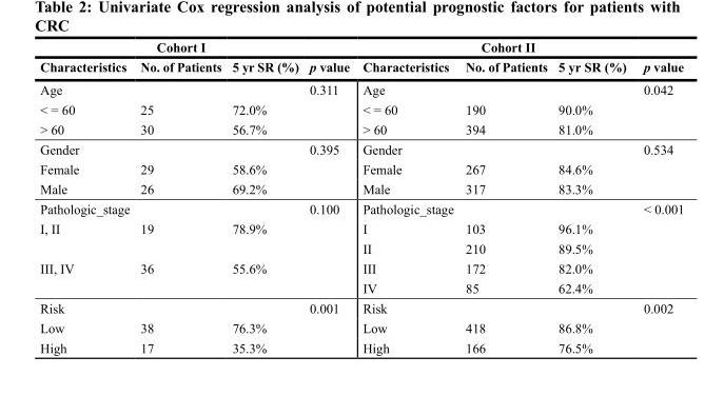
<table><thead><tr><td colspan="4">Cohort I</td><td colspan="4">Cohort II</td></tr><tr><td>Characteristics</td><td>No. of Patients</td><td>5 yr SR (%)</td><td>p value</td><td>Characteristics</td><td>No. of Patients</td><td>5 yr SR (%)</td><td>p value</td></tr></thead><tbody><tr><td>Age</td><td></td><td></td><td>0.311</td><td>Age</td><td></td><td></td><td>0.042</td></tr><tr><td>&lt; = 60</td><td>25</td><td>72.0%</td><td></td><td>&lt; = 60</td><td>190</td><td>90.0%</td><td></td></tr><tr><td>&gt; 60</td><td>30</td><td>56.7%</td><td></td><td>&gt; 60</td><td>394</td><td>81.0%</td><td></td></tr><tr><td>Gender</td><td></td><td></td><td>0.395</td><td>Gender</td><td></td><td></td><td>0.534</td></tr><tr><td>Female</td><td>29</td><td>58.6%</td><td></td><td>Female</td><td>267</td><td>84.6%</td><td></td></tr><tr><td>Male</td><td>26</td><td>69.2%</td><td></td><td>Male</td><td>317</td><td>83.3%</td><td></td></tr><tr><td>Pathologic_stage</td><td></td><td></td><td>0.100</td><td>Pathologic_stage</td><td></td><td></td><td>&lt; 0.001</td></tr><tr><td rowspan="2">I, II</td><td>19</td><td>78.9%</td><td></td><td>I</td><td>103</td><td>96.1%</td><td></td></tr><tr><td></td><td></td><td></td><td>II</td><td>210</td><td>89.5%</td><td></td></tr><tr><td rowspan="2">III, IV</td><td>36</td><td>55.6%</td><td></td><td>III</td><td>172</td><td>82.0%</td><td></td></tr><tr><td></td><td></td><td></td><td>IV</td><td>85</td><td>62.4%</td><td></td></tr><tr><td>Risk</td><td></td><td></td><td>0.001</td><td>Risk</td><td></td><td></td><td>0.002</td></tr><tr><td>Low</td><td>38</td><td>76.3%</td><td></td><td>Low</td><td>418</td><td>86.8%</td><td></td></tr><tr><td>High</td><td>17</td><td>35.3%</td><td></td><td>High</td><td>166</td><td>76.5%</td><td></td></tr></tbody></table>